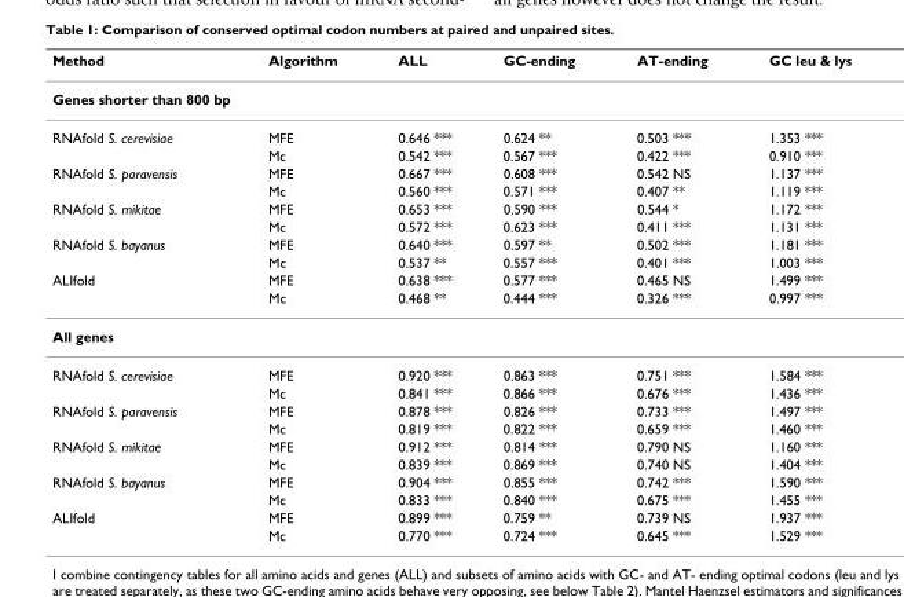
<table><thead><tr><td>Method</td><td>Algorithm</td><td>ALL</td><td>GC-ending</td><td>AT-ending</td><td>GC leu &amp; lys</td></tr></thead><tbody><tr><td colspan="6">Genes shorter than 800 bp</td></tr><tr><td rowspan="2">RNAfold S. cerevisiae</td><td>MFE</td><td>0.646 ***</td><td>0.624 **</td><td>0.503 ***</td><td>1.353 ***</td></tr><tr><td>Mc</td><td>0.542 ***</td><td>0.567 ***</td><td>0.422 ***</td><td>0.910 ***</td></tr><tr><td rowspan="2">RNAfold S. paravensis</td><td>MFE</td><td>0.667 ***</td><td>0.608 ***</td><td>0.542 NS</td><td>1.137 ***</td></tr><tr><td>Mc</td><td>0.560 ***</td><td>0.571 ***</td><td>0.407 **</td><td>1.119 ***</td></tr><tr><td rowspan="2">RNAfold S. mikitae</td><td>MFE</td><td>0.653 ***</td><td>0.590 ***</td><td>0.544 *</td><td>1.172 ***</td></tr><tr><td>Mc</td><td>0.572 ***</td><td>0.623 ***</td><td>0.411 ***</td><td>1.131 ***</td></tr><tr><td rowspan="2">RNAfold S. bayanus</td><td>MFE</td><td>0.640 ***</td><td>0.597 **</td><td>0.502 ***</td><td>1.181 ***</td></tr><tr><td>Mc</td><td>0.537 **</td><td>0.557 ***</td><td>0.401 ***</td><td>1.003 ***</td></tr><tr><td rowspan="2">ALIfold</td><td>MFE</td><td>0.638 ***</td><td>0.577 ***</td><td>0.465 NS</td><td>1.499 ***</td></tr><tr><td>Mc</td><td>0.468 **</td><td>0.444 ***</td><td>0.326 ***</td><td>0.997 ***</td></tr><tr><td colspan="6">All genes</td></tr><tr><td rowspan="2">RNAfold S. cerevisiae</td><td>MFE</td><td>0.920 ***</td><td>0.863 ***</td><td>0.751 ***</td><td>1.584 ***</td></tr><tr><td>Mc</td><td>0.841 ***</td><td>0.866 ***</td><td>0.676 ***</td><td>1.436 ***</td></tr><tr><td rowspan="2">RNAfold S. paravensis</td><td>MFE</td><td>0.878 ***</td><td>0.826 ***</td><td>0.733 ***</td><td>1.497 ***</td></tr><tr><td>Mc</td><td>0.819 ***</td><td>0.822 ***</td><td>0.659 ***</td><td>1.460 ***</td></tr><tr><td rowspan="2">RNAfold S. mikitae</td><td>MFE</td><td>0.912 ***</td><td>0.814 ***</td><td>0.790 NS</td><td>1.160 ***</td></tr><tr><td>Mc</td><td>0.839 ***</td><td>0.869 ***</td><td>0.740 NS</td><td>1.404 ***</td></tr><tr><td rowspan="2">RNAfold S. bayanus</td><td>MFE</td><td>0.904 ***</td><td>0.855 ***</td><td>0.742 ***</td><td>1.590 ***</td></tr><tr><td>Mc</td><td>0.833 ***</td><td>0.840 ***</td><td>0.675 ***</td><td>1.455 ***</td></tr><tr><td rowspan="2">ALIfold</td><td>MFE</td><td>0.899 ***</td><td>0.759 **</td><td>0.739 NS</td><td>1.937 ***</td></tr><tr><td>Mc</td><td>0.770 ***</td><td>0.724 ***</td><td>0.645 ***</td><td>1.529 ***</td></tr></tbody></table>